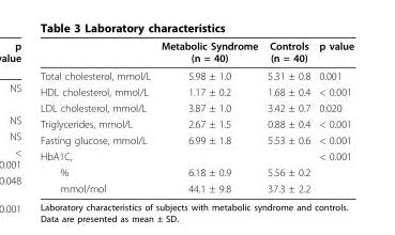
<table><thead><tr><td></td><td>Metabolic Syndrome (n = 40)</td><td>Controls (n = 40)</td><td>p value</td></tr></thead><tbody><tr><td>Total cholesterol, mmol/L</td><td>5.98 ± 1.0</td><td>5.31 ± 0.8</td><td>0.001</td></tr><tr><td>HDL cholesterol, mmol/L</td><td>1.17 ± 0.2</td><td>1.68 ± 0.4</td><td>&lt; 0.001</td></tr><tr><td>LDL cholesterol, mmol/L</td><td>3.87 ± 1.0</td><td>3.42 ± 0.7</td><td>0.020</td></tr><tr><td>Triglycerides, mmol/L</td><td>2.67 ± 1.5</td><td>0.88 ± 0.4</td><td>&lt; 0.001</td></tr><tr><td>Fasting glucose, mmol/L</td><td>6.99 ± 1.8</td><td>5.53 ± 0.6</td><td>&lt; 0.001</td></tr><tr><td>HbA1C,</td><td></td><td></td><td>&lt; 0.001</td></tr><tr><td>%</td><td>6.18 ± 0.9</td><td>5.56 ± 0.2</td><td></td></tr><tr><td>mmol/mol</td><td>44.1 ± 9.8</td><td>37.3 ± 2.2</td><td></td></tr></tbody></table>